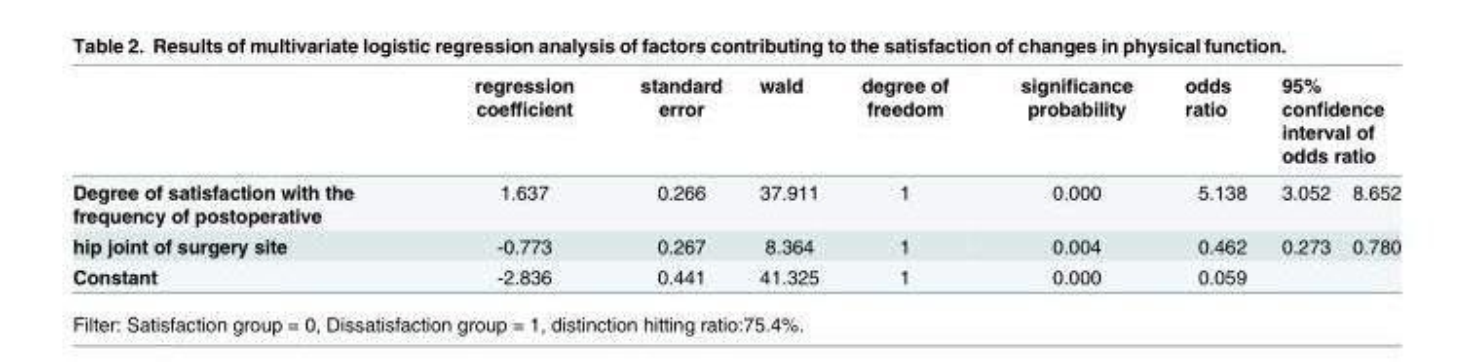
<table><thead><tr><td rowspan="2">Degree of satisfaction with the frequency of postoperative</td><td rowspan="2">regression coefficient 1.637</td><td rowspan="2">standard error 0.266</td><td rowspan="2">wald 37.911</td><td rowspan="2">degree of freedom 1</td><td rowspan="2">significance probability 0.000</td><td rowspan="2">odds ratio 5.138</td><td colspan="2">95% confidence interval of odds ratio</td></tr><tr><td>3.052</td><td>8.652</td></tr></thead><tbody><tr><td>hip joint of surgery site</td><td>-0.773</td><td>0.267</td><td>8.364</td><td>1</td><td>0.004</td><td>0.462</td><td>0.273</td><td>0.780</td></tr><tr><td>Constant</td><td>-2.836</td><td>0.441</td><td>41.325</td><td>1</td><td>0.000</td><td>0.059</td><td></td><td></td></tr></tbody></table>